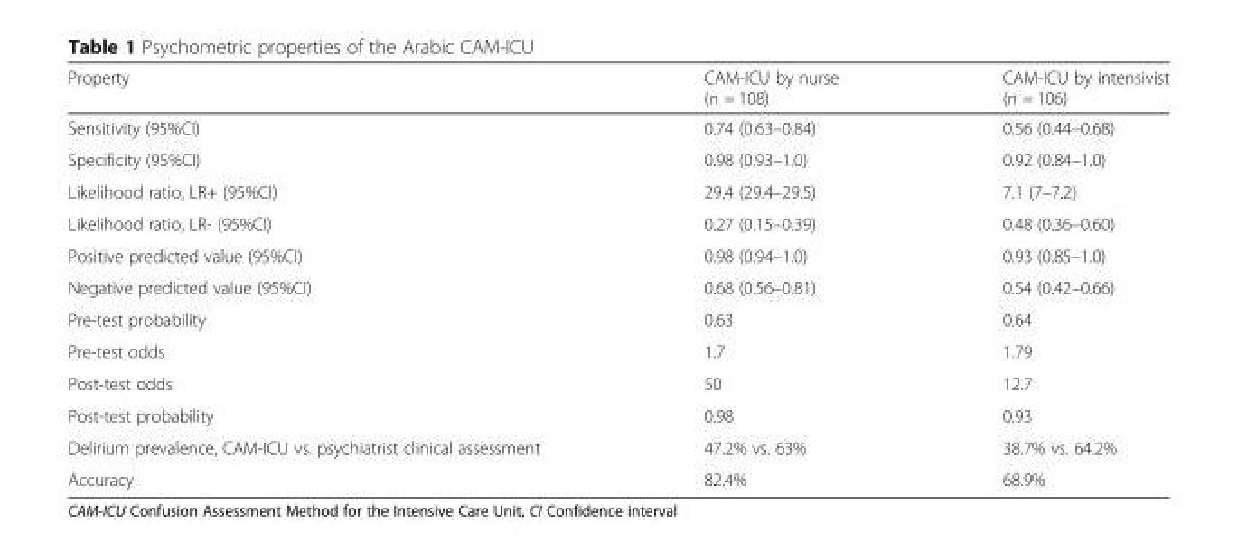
<table><thead><tr><td>Property</td><td>CAM-ICU by nurse (n = 108)</td><td>CAM-ICU by intensivist (n = 106)</td></tr></thead><tbody><tr><td>Sensitivity (95%CI)</td><td>0.74 (0.63–0.84)</td><td>0.56 (0.44–0.68)</td></tr><tr><td>Specificity (95%CI)</td><td>0.98 (0.93–1.0)</td><td>0.92 (0.84–1.0)</td></tr><tr><td>Likelihood ratio, LR+ (95%CI)</td><td>29.4 (29.4–29.5)</td><td>7.1 (7–7.2)</td></tr><tr><td>Likelihood ratio, LR- (95%CI)</td><td>0.27 (0.15–0.39)</td><td>0.48 (0.36–0.60)</td></tr><tr><td>Positive predicted value (95%CI)</td><td>0.98 (0.94–1.0)</td><td>0.93 (0.85–1.0)</td></tr><tr><td>Negative predicted value (95%CI)</td><td>0.68 (0.56–0.81)</td><td>0.54 (0.42–0.66)</td></tr><tr><td>Pre-test probability</td><td>0.63</td><td>0.64</td></tr><tr><td>Pre-test odds</td><td>1.7</td><td>1.79</td></tr><tr><td>Post-test odds</td><td>50</td><td>12.7</td></tr><tr><td>Post-test probability</td><td>0.98</td><td>0.93</td></tr><tr><td>Delirium prevalence, CAM-ICU vs. psychiatrist clinical assessment</td><td>47.2% vs. 63%</td><td>38.7% vs. 64.2%</td></tr><tr><td>Accuracy</td><td>82.4%</td><td>68.9%</td></tr></tbody></table>